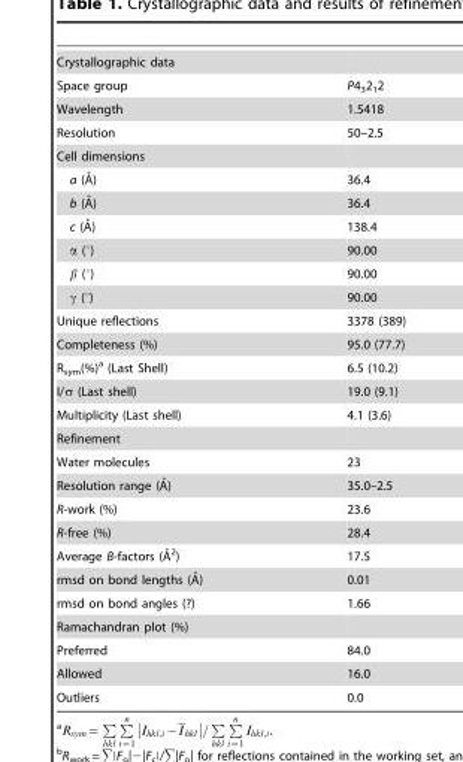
<table><tbody><tr><td colspan="2">Crystallographic data</td></tr><tr><td>Space group</td><td>P4<sub>3</sub>2<sub>1</sub>2</td></tr><tr><td>Wavelength</td><td>1.5418</td></tr><tr><td>Resolution</td><td>50–2.5</td></tr><tr><td colspan="2">Cell dimensions</td></tr><tr><td>a (A˚)</td><td>36.4</td></tr><tr><td>b (A˚)</td><td>36.4</td></tr><tr><td>c (A˚)</td><td>138.4</td></tr><tr><td>α (°)</td><td>90.00</td></tr><tr><td>β (°)</td><td>90.00</td></tr><tr><td>γ (°)</td><td>90.00</td></tr><tr><td>Unique reflections</td><td>3378 (389)</td></tr><tr><td>Completeness (%)</td><td>95.0 (77.7)</td></tr><tr><td>R<sub>sym</sub>(%)<sup>a</sup> (Last Shell)</td><td>6.5 (10.2)</td></tr><tr><td>I/σ (Last shell)</td><td>19.0 (9.1)</td></tr><tr><td>Multiplicity (Last shell)</td><td>4.1 (3.6)</td></tr><tr><td colspan="2">Refinement</td></tr><tr><td>Water molecules</td><td>23</td></tr><tr><td>Resolution range (A˚)</td><td>35.0–2.5</td></tr><tr><td>R-work (%)</td><td>23.6</td></tr><tr><td>R-free (%)</td><td>28.4</td></tr><tr><td>Average B-factors (A˚2)</td><td>17.5</td></tr><tr><td>rmsd on bond lengths (A˚)</td><td>0.01</td></tr><tr><td>rmsd on bond angles (?)</td><td>1.66</td></tr><tr><td colspan="2">Ramachandran plot (%)</td></tr><tr><td>Preferred</td><td>84.0</td></tr><tr><td>Allowed</td><td>16.0</td></tr><tr><td>Outliers</td><td>0.0</td></tr></tbody></table>